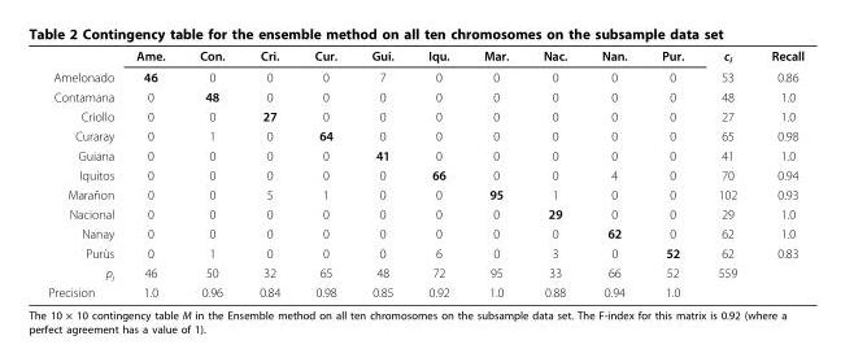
<table><thead><tr><td></td><td>Ame.</td><td>Con.</td><td>Cri.</td><td>Cur.</td><td>Gui.</td><td>Iqu.</td><td>Mar.</td><td>Nac.</td><td>Nan.</td><td>Pur.</td><td>c<sub>i</sub></td><td>Recall</td></tr></thead><tbody><tr><td>Amelonado</td><td>46</td><td>0</td><td>0</td><td>0</td><td>7</td><td>0</td><td>0</td><td>0</td><td>0</td><td>0</td><td>53</td><td>0.86</td></tr><tr><td>Contamana</td><td>0</td><td>48</td><td>0</td><td>0</td><td>0</td><td>0</td><td>0</td><td>0</td><td>0</td><td>0</td><td>48</td><td>1.0</td></tr><tr><td>Criollo</td><td>0</td><td>0</td><td>27</td><td>0</td><td>0</td><td>0</td><td>0</td><td>0</td><td>0</td><td>0</td><td>27</td><td>1.0</td></tr><tr><td>Curaray</td><td>0</td><td>1</td><td>0</td><td>64</td><td>0</td><td>0</td><td>0</td><td>0</td><td>0</td><td>0</td><td>65</td><td>0.98</td></tr><tr><td>Guiana</td><td>0</td><td>0</td><td>0</td><td>0</td><td>41</td><td>0</td><td>0</td><td>0</td><td>0</td><td>0</td><td>41</td><td>1.0</td></tr><tr><td>Iquitos</td><td>0</td><td>0</td><td>0</td><td>0</td><td>0</td><td>66</td><td>0</td><td>0</td><td>4</td><td>0</td><td>70</td><td>0.94</td></tr><tr><td>Marañon</td><td>0</td><td>0</td><td>5</td><td>1</td><td>0</td><td>0</td><td>95</td><td>1</td><td>0</td><td>0</td><td>102</td><td>0.93</td></tr><tr><td>Nacional</td><td>0</td><td>0</td><td>0</td><td>0</td><td>0</td><td>0</td><td>0</td><td>29</td><td>0</td><td>0</td><td>29</td><td>1.0</td></tr><tr><td>Nanay</td><td>0</td><td>0</td><td>0</td><td>0</td><td>0</td><td>0</td><td>0</td><td>0</td><td>62</td><td>0</td><td>62</td><td>1.0</td></tr><tr><td>Purùs</td><td>0</td><td>1</td><td>0</td><td>0</td><td>0</td><td>6</td><td>0</td><td>3</td><td>0</td><td>52</td><td>62</td><td>0.83</td></tr><tr><td>p<sub>j</sub></td><td>46</td><td>50</td><td>32</td><td>65</td><td>48</td><td>72</td><td>95</td><td>33</td><td>66</td><td>52</td><td>559</td><td></td></tr><tr><td>Precision</td><td>1.0</td><td>0.96</td><td>0.84</td><td>0.98</td><td>0.85</td><td>0.92</td><td>1.0</td><td>0.88</td><td>0.94</td><td>1.0</td><td></td><td></td></tr></tbody></table>